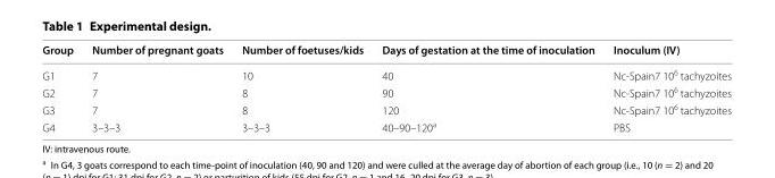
<table><thead><tr><td>Group</td><td>Number of pregnant goats</td><td>Number of foetuses/kids</td><td>Days of gestation at the time of inoculation</td><td>Inoculum (IV)</td></tr></thead><tbody><tr><td>G1</td><td>7</td><td>10</td><td>40</td><td>Nc‑Spain7 10<sup>6</sup> tachyzoites</td></tr><tr><td>G2</td><td>7</td><td>8</td><td>90</td><td>Nc‑Spain7 10<sup>6</sup> tachyzoites</td></tr><tr><td>G3</td><td>7</td><td>8</td><td>120</td><td>Nc‑Spain7 10<sup>6</sup> tachyzoites</td></tr><tr><td>G4</td><td>3–3–3</td><td>3–3–3</td><td>40–90–120<sup>a</sup></td><td>PBS</td></tr></tbody></table>